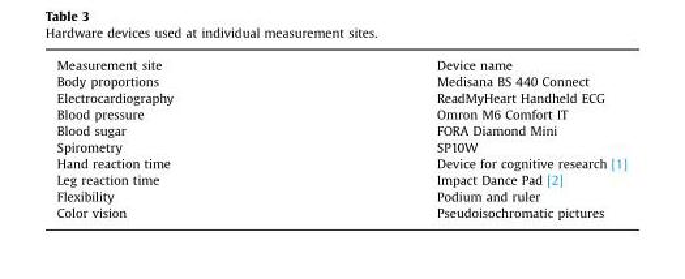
<table><tbody><tr><td>Measurement site</td><td>Device name</td></tr><tr><td>Body proportions</td><td>Medisana BS 440 Connect</td></tr><tr><td>Electrocardiography</td><td>ReadMyHeart Handheld ECG</td></tr><tr><td>Blood pressure</td><td>Omron M6 Comfort IT</td></tr><tr><td>Blood sugar</td><td>FORA Diamond Mini</td></tr><tr><td>Spirometry</td><td>SP10W</td></tr><tr><td>Hand reaction time</td><td>Device for cognitive research [1]</td></tr><tr><td>Leg reaction time</td><td>Impact Dance Pad [2]</td></tr><tr><td>Flexibility</td><td>Podium and ruler</td></tr><tr><td>Color vision</td><td>Pseudoisochromatic pictures</td></tr></tbody></table>